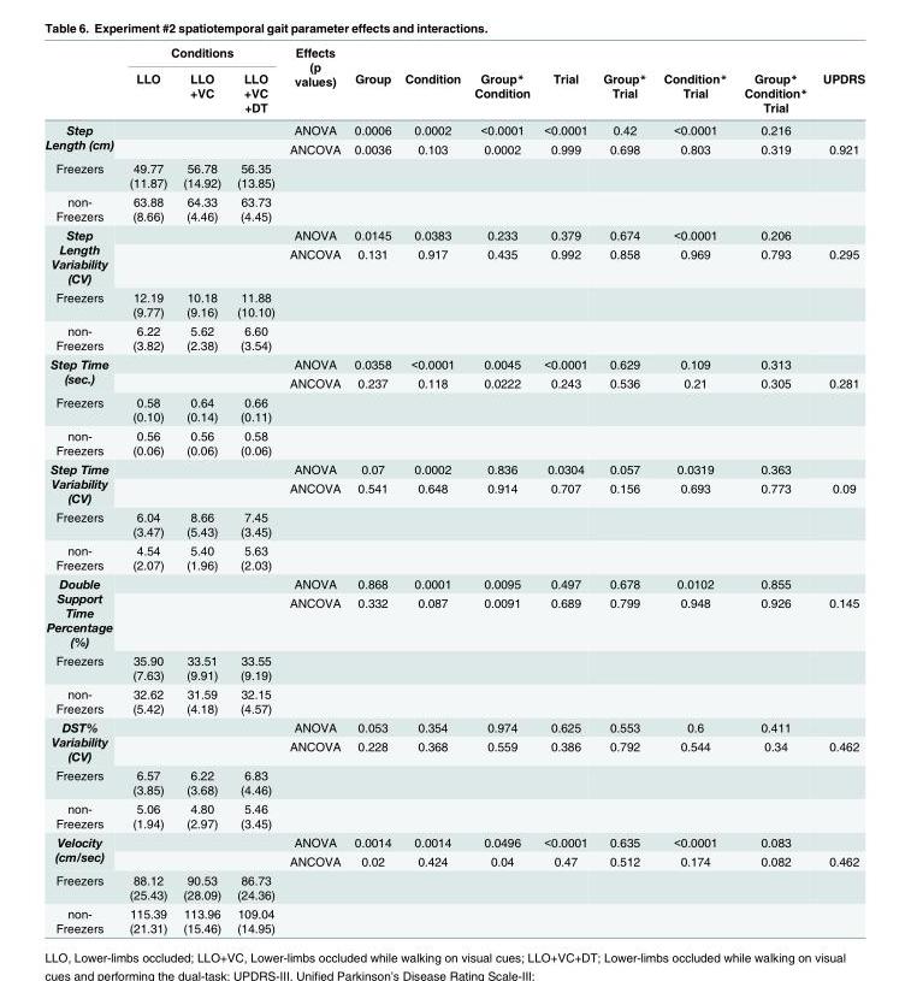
<table><thead><tr><td rowspan="2"></td><td colspan="3">Conditions</td><td rowspan="2">Effects (p values)</td><td rowspan="2">Group</td><td rowspan="2">Condition</td><td rowspan="2">Group* Condition</td><td rowspan="2">Trial</td><td rowspan="2">Group* Trial</td><td rowspan="2">Condition* Trial</td><td rowspan="2">Group* Condition* Trial</td><td rowspan="2">UPDRS</td></tr><tr><td>LLO</td><td>LLO +VC</td><td>LLO +VC +DT</td></tr></thead><tbody><tr><td rowspan="2">Step Length (cm)</td><td colspan="3"></td><td>ANOVA</td><td>0.0006</td><td>0.0002</td><td>&lt;0.0001</td><td>&lt;0.0001</td><td>0.42</td><td>&lt;0.0001</td><td>0.216</td><td></td></tr><tr><td colspan="3"></td><td>ANCOVA</td><td>0.0036</td><td>0.103</td><td>0.0002</td><td>0.999</td><td>0.698</td><td>0.803</td><td>0.319</td><td>0.921</td></tr><tr><td>Freezers</td><td>49.77 (11.87)</td><td>56.78 (14.92)</td><td>56.35 (13.85)</td><td></td><td></td><td></td><td></td><td></td><td></td><td></td><td></td><td></td></tr><tr><td>non- Freezers</td><td>63.88 (8.66)</td><td>64.33 (4.46)</td><td>63.73 (4.45)</td><td></td><td></td><td></td><td></td><td></td><td></td><td></td><td></td><td></td></tr><tr><td rowspan="2">Step Length Variability (CV)</td><td colspan="3"></td><td>ANOVA</td><td>0.0145</td><td>0.0383</td><td>0.233</td><td>0.379</td><td>0.674</td><td>&lt;0.0001</td><td>0.206</td><td></td></tr><tr><td colspan="3"></td><td>ANCOVA</td><td>0.131</td><td>0.917</td><td>0.435</td><td>0.992</td><td>0.858</td><td>0.969</td><td>0.793</td><td>0.295</td></tr><tr><td>Freezers</td><td>12.19 (9.77)</td><td>10.18 (9.16)</td><td>11.88 (10.10)</td><td></td><td></td><td></td><td></td><td></td><td></td><td></td><td></td><td></td></tr><tr><td>non- Freezers</td><td>6.22 (3.82)</td><td>5.62 (2.38)</td><td>6.60 (3.54)</td><td></td><td></td><td></td><td></td><td></td><td></td><td></td><td></td><td></td></tr><tr><td rowspan="2">Step Time (sec.)</td><td colspan="3"></td><td>ANOVA</td><td>0.0358</td><td>&lt;0.0001</td><td>0.0045</td><td>&lt;0.0001</td><td>0.629</td><td>0.109</td><td>0.313</td><td></td></tr><tr><td colspan="3"></td><td>ANCOVA</td><td>0.237</td><td>0.118</td><td>0.0222</td><td>0.243</td><td>0.536</td><td>0.21</td><td>0.305</td><td>0.281</td></tr><tr><td>Freezers</td><td>0.58 (0.10)</td><td>0.64 (0.14)</td><td>0.66 (0.11)</td><td></td><td></td><td></td><td></td><td></td><td></td><td></td><td></td><td></td></tr><tr><td>non- Freezers</td><td>0.56 (0.06)</td><td>0.56 (0.06)</td><td>0.58 (0.06)</td><td></td><td></td><td></td><td></td><td></td><td></td><td></td><td></td><td></td></tr><tr><td rowspan="2">Step Time Variability (CV)</td><td colspan="3"></td><td>ANOVA</td><td>0.07</td><td>0.0002</td><td>0.836</td><td>0.0304</td><td>0.057</td><td>0.0319</td><td>0.363</td><td></td></tr><tr><td colspan="3"></td><td>ANCOVA</td><td>0.541</td><td>0.648</td><td>0.914</td><td>0.707</td><td>0.156</td><td>0.693</td><td>0.773</td><td>0.09</td></tr><tr><td>Freezers</td><td>6.04 (3.47)</td><td>8.66 (5.43)</td><td>7.45 (3.45)</td><td></td><td></td><td></td><td></td><td></td><td></td><td></td><td></td><td></td></tr><tr><td>non- Freezers</td><td>4.54 (2.07)</td><td>5.40 (1.96)</td><td>5.63 (2.03)</td><td></td><td></td><td></td><td></td><td></td><td></td><td></td><td></td><td></td></tr><tr><td rowspan="2">Double Support Time Percentage (%)</td><td colspan="3"></td><td>ANOVA</td><td>0.868</td><td>0.0001</td><td>0.0095</td><td>0.497</td><td>0.678</td><td>0.0102</td><td>0.855</td><td></td></tr><tr><td colspan="3"></td><td>ANCOVA</td><td>0.332</td><td>0.087</td><td>0.0091</td><td>0.689</td><td>0.799</td><td>0.948</td><td>0.926</td><td>0.145</td></tr><tr><td>Freezers</td><td>35.90 (7.63)</td><td>33.51 (9.91)</td><td>33.55 (9.19)</td><td></td><td></td><td></td><td></td><td></td><td></td><td></td><td></td><td></td></tr><tr><td>non- Freezers</td><td>32.62 (5.42)</td><td>31.59 (4.18)</td><td>32.15 (4.57)</td><td></td><td></td><td></td><td></td><td></td><td></td><td></td><td></td><td></td></tr><tr><td rowspan="2">DST% Variability (CV)</td><td colspan="3"></td><td>ANOVA</td><td>0.053</td><td>0.354</td><td>0.974</td><td>0.625</td><td>0.553</td><td>0.6</td><td>0.411</td><td></td></tr><tr><td colspan="3"></td><td>ANCOVA</td><td>0.228</td><td>0.368</td><td>0.559</td><td>0.386</td><td>0.792</td><td>0.544</td><td>0.34</td><td>0.462</td></tr><tr><td>Freezers</td><td>6.57 (3.85)</td><td>6.22 (3.68)</td><td>6.83 (4.46)</td><td></td><td></td><td></td><td></td><td></td><td></td><td></td><td></td><td></td></tr><tr><td>non- Freezers</td><td>5.06 (1.94)</td><td>4.80 (2.97)</td><td>5.46 (3.45)</td><td></td><td></td><td></td><td></td><td></td><td></td><td></td><td></td><td></td></tr><tr><td rowspan="2">Velocity (cm/sec)</td><td colspan="3"></td><td>ANOVA</td><td>0.0014</td><td>0.0014</td><td>0.0496</td><td>&lt;0.0001</td><td>0.635</td><td>&lt;0.0001</td><td>0.083</td><td></td></tr><tr><td colspan="3"></td><td>ANCOVA</td><td>0.02</td><td>0.424</td><td>0.04</td><td>0.47</td><td>0.512</td><td>0.174</td><td>0.082</td><td>0.462</td></tr><tr><td>Freezers</td><td>88.12 (25.43)</td><td>90.53 (28.09)</td><td>86.73 (24.36)</td><td></td><td></td><td></td><td></td><td></td><td></td><td></td><td></td><td></td></tr><tr><td>non- Freezers</td><td>115.39 (21.31)</td><td>113.96 (15.46)</td><td>109.04 (14.95)</td><td></td><td></td><td></td><td></td><td></td><td></td><td></td><td></td><td></td></tr></tbody></table>